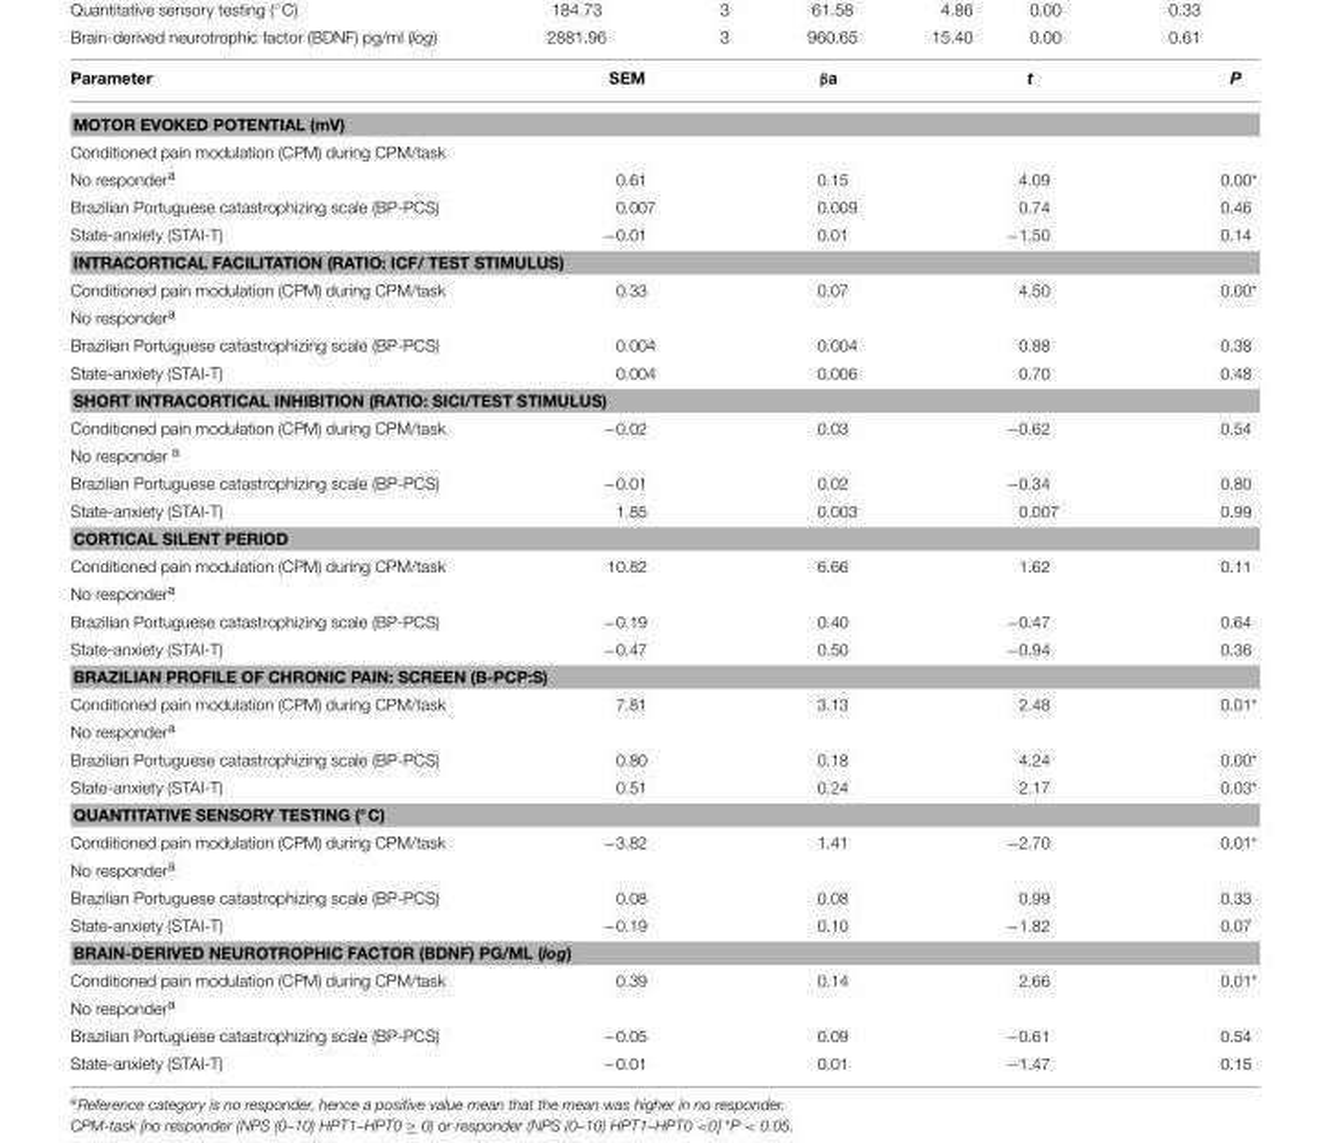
<table><thead><tr><td>Parameter</td><td>SEM</td><td>βa</td><td>t</td><td>P</td></tr></thead><tbody><tr><td colspan="5">MOTOR EVOKED POTENTIAL (mV)</td></tr><tr><td colspan="5">Conditioned pain modulation (CPM) during CPM/task</td></tr><tr><td>No responder<sup>a</sup></td><td>0.61</td><td>0.15</td><td>4.09</td><td>0.00*</td></tr><tr><td>Brazilian Portuguese catastrophizing scale (BP-PCS)</td><td>0.007</td><td>0.009</td><td>0.74</td><td>0.46</td></tr><tr><td>State-anxiety (STAI-T)</td><td>−0.01</td><td>0.01</td><td>−1.50</td><td>0.14</td></tr><tr><td colspan="5">INTRACORTICAL FACILITATION (RATIO: ICF/ TEST STIMULUS)</td></tr><tr><td>Conditioned pain modulation (CPM) during CPM/task</td><td>0.33</td><td>0.07</td><td>4.50</td><td>0.00*</td></tr><tr><td colspan="5">No responder<sup>a</sup></td></tr><tr><td>Brazilian Portuguese catastrophizing scale (BP-PCS)</td><td>0.004</td><td>0.004</td><td>0.88</td><td>0.38</td></tr><tr><td>State-anxiety (STAI-T)</td><td>0.004</td><td>0.006</td><td>0.70</td><td>0.48</td></tr><tr><td colspan="5">SHORT INTRACORTICAL INHIBITION (RATIO: SICI/TEST STIMULUS)</td></tr><tr><td>Conditioned pain modulation (CPM) during CPM/task</td><td>−0.02</td><td>0.03</td><td>−0.62</td><td>0.54</td></tr><tr><td colspan="5">No responder <sup>a</sup></td></tr><tr><td>Brazilian Portuguese catastrophizing scale (BP-PCS)</td><td>−0.01</td><td>0.02</td><td>−0.34</td><td>0.80</td></tr><tr><td>State-anxiety (STAI-T)</td><td>1.85</td><td>0.003</td><td>0.007</td><td>0.99</td></tr><tr><td colspan="5">CORTICAL SILENT PERIOD</td></tr><tr><td>Conditioned pain modulation (CPM) during CPM/task</td><td>10.82</td><td>6.66</td><td>1.62</td><td>0.11</td></tr><tr><td colspan="5">No responder<sup>a</sup></td></tr><tr><td>Brazilian Portuguese catastrophizing scale (BP-PCS)</td><td>−0.19</td><td>0.40</td><td>−0.47</td><td>0.64</td></tr><tr><td>State-anxiety (STAI-T)</td><td>−0.47</td><td>0.50</td><td>−0.94</td><td>0.36</td></tr><tr><td colspan="5">BRAZILIAN PROFILE OF CHRONIC PAIN: SCREEN (B-PCP:S)</td></tr><tr><td>Conditioned pain modulation (CPM) during CPM/task</td><td>7.81</td><td>3.13</td><td>2.48</td><td>0.01*</td></tr><tr><td colspan="5">No responder<sup>a</sup></td></tr><tr><td>Brazilian Portuguese catastrophizing scale (BP-PCS)</td><td>0.80</td><td>0.18</td><td>4.24</td><td>0.00*</td></tr><tr><td>State-anxiety (STAI-T)</td><td>0.51</td><td>0.24</td><td>2.17</td><td>0.03*</td></tr><tr><td colspan="5">QUANTITATIVE SENSORY TESTING (◦C)</td></tr><tr><td>Conditioned pain modulation (CPM) during CPM/task</td><td>−3.82</td><td>1.41</td><td>−2.70</td><td>0.01*</td></tr><tr><td colspan="5">No responder<sup>a</sup></td></tr><tr><td>Brazilian Portuguese catastrophizing scale (BP-PCS)</td><td>0.08</td><td>0.08</td><td>0.99</td><td>0.33</td></tr><tr><td>State-anxiety (STAI-T)</td><td>−0.19</td><td>0.10</td><td>−1.82</td><td>0.07</td></tr><tr><td colspan="5">BRAIN-DERIVED NEUROTROPHIC FACTOR (BDNF) PG/ML (log)</td></tr><tr><td>Conditioned pain modulation (CPM) during CPM/task</td><td>0.39</td><td>0.14</td><td>2.66</td><td>0.01*</td></tr><tr><td colspan="5">No responder<sup>a</sup></td></tr><tr><td>Brazilian Portuguese catastrophizing scale (BP-PCS)</td><td>−0.05</td><td>0.09</td><td>−0.61</td><td>0.54</td></tr><tr><td>State-anxiety (STAI-T)</td><td>−0.01</td><td>0.01</td><td>−1.47</td><td>0.15</td></tr></tbody></table>